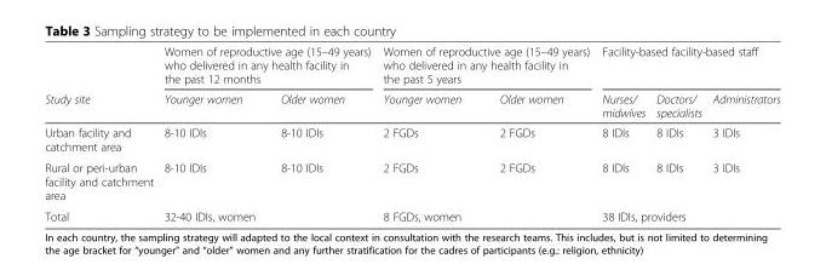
<table><thead><tr><td rowspan="2">Study site</td><td colspan="2">Women of reproductive age (15–49 years) who delivered in any health facility in the past 12 months</td><td colspan="2">Women of reproductive age (15–49 years) who delivered in any health facility in the past 5 years</td><td colspan="3">Facility-based facility-based staff</td></tr><tr><td>Younger women</td><td>Older women</td><td>Younger women</td><td>Older women</td><td>Nurses/ midwives</td><td>Doctors/ specialists</td><td>Administrators</td></tr></thead><tbody><tr><td>Urban facility and catchment area</td><td>8-10 IDIs</td><td>8-10 IDIs</td><td>2 FGDs</td><td>2 FGDs</td><td>8 IDIs</td><td>8 IDIs</td><td>3 IDIs</td></tr><tr><td>Rural or peri-urban facility and catchment area</td><td>8-10 IDIs</td><td>8-10 IDIs</td><td>2 FGDs</td><td>2 FGDs</td><td>8 IDIs</td><td>8 IDIs</td><td>3 IDIs</td></tr><tr><td>Total</td><td colspan="2">32-40 IDIs, women</td><td colspan="2">8 FGDs, women</td><td colspan="3">38 IDIs, providers</td></tr></tbody></table>